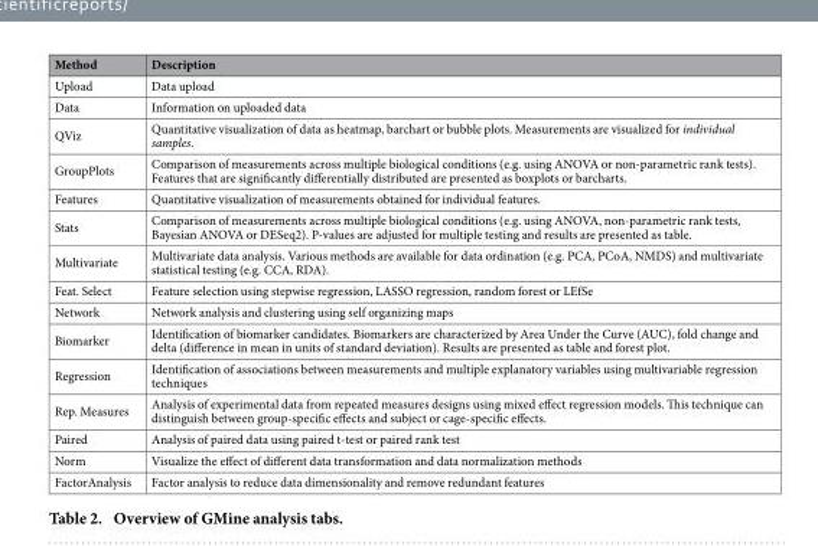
<table><thead><tr><td>Method</td><td>Description</td></tr></thead><tbody><tr><td>Upload</td><td>Data upload</td></tr><tr><td>Data</td><td>Information on uploaded data</td></tr><tr><td>QViz</td><td>Quantitative visualization of data as heatmap, barchart or bubble plots. Measurements are visualized for individual samples.</td></tr><tr><td>GroupPlots</td><td>Comparison of measurements across multiple biological conditions (e.g. using ANOVA or non-parametric rank tests). Features that are significantly differentially distributed are presented as boxplots or barcharts.</td></tr><tr><td>Features</td><td>Quantitative visualization of measurements obtained for individual features.</td></tr><tr><td>Stats</td><td>Comparison of measurements across multiple biological conditions (e.g. using ANOVA, non-parametric rank tests, Bayesian ANOVA or DESeq2). P-values are adjusted for multiple testing and results are presented as table.</td></tr><tr><td>Multivariate</td><td>Multivariate data analysis. Various methods are available for data ordination (e.g. PCA, PCoA, NMDS) and multivariate statistical testing (e.g. CCA, RDA).</td></tr><tr><td>Feat. Select</td><td>Feature selection using stepwise regression, LASSO regression, random forest or LEfSe</td></tr><tr><td>Network</td><td>Network analysis and clustering using self organizing maps</td></tr><tr><td>Biomarker</td><td>Identification of biomarker candidates. Biomarkers are characterized by Area Under the Curve (AUC), fold change and delta (difference in mean in units of standard deviation). Results are presented as table and forest plot.</td></tr><tr><td>Regression</td><td>Identification of associations between measurements and multiple explanatory variables using multivariable regression techniques</td></tr><tr><td>Rep. Measures</td><td>Analysis of experimental data from repeated measures designs using mixed effect regression models. This technique can distinguish between group-specific effects and subject or cage-specific effects.</td></tr><tr><td>Paired</td><td>Analysis of paired data using paired t-test or paired rank test</td></tr><tr><td>Norm</td><td>Visualize the effect of different data transformation and data normalization methods</td></tr><tr><td>FactorAnalysis</td><td>Factor analysis to reduce data dimensionality and remove redundant features</td></tr></tbody></table>